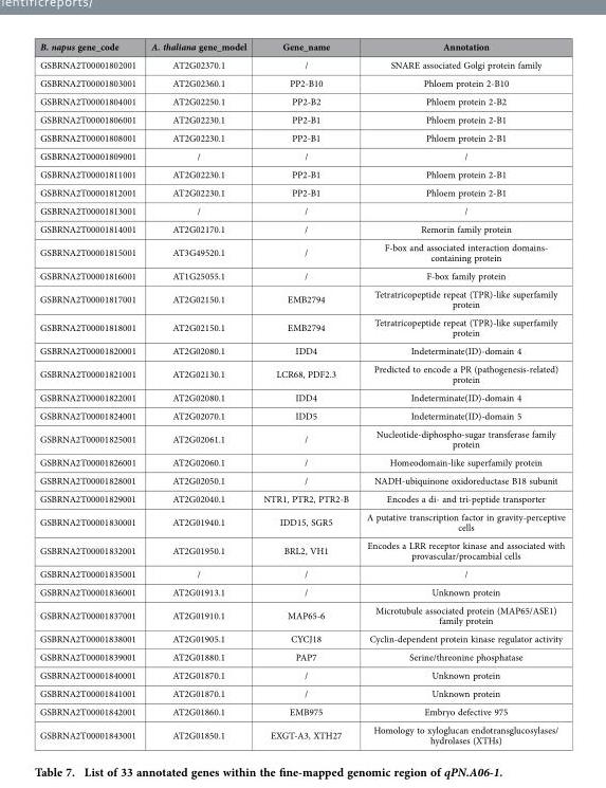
<table><thead><tr><td>B. napus gene_code</td><td>A. thaliana gene_model</td><td>Gene_name</td><td>Annotation</td></tr></thead><tbody><tr><td>GSBRNA2T00001802001</td><td>AT2G02370.1</td><td>/</td><td>SNARE associated Golgi protein family</td></tr><tr><td>GSBRNA2T00001803001</td><td>AT2G02360.1</td><td>PP2-B10</td><td>Phloem protein 2-B10</td></tr><tr><td>GSBRNA2T00001804001</td><td>AT2G02250.1</td><td>PP2-B2</td><td>Phloem protein 2-B2</td></tr><tr><td>GSBRNA2T00001806001</td><td>AT2G02230.1</td><td>PP2-B1</td><td>Phloem protein 2-B1</td></tr><tr><td>GSBRNA2T00001808001</td><td>AT2G02230.1</td><td>PP2-B1</td><td>Phloem protein 2-B1</td></tr><tr><td>GSBRNA2T00001809001</td><td>/</td><td>/</td><td>/</td></tr><tr><td>GSBRNA2T00001811001</td><td>AT2G02230.1</td><td>PP2-B1</td><td>Phloem protein 2-B1</td></tr><tr><td>GSBRNA2T00001812001</td><td>AT2G02230.1</td><td>PP2-B1</td><td>Phloem protein 2-B1</td></tr><tr><td>GSBRNA2T00001813001</td><td>/</td><td>/</td><td>/</td></tr><tr><td>GSBRNA2T00001814001</td><td>AT2G02170.1</td><td>/</td><td>Remorin family protein</td></tr><tr><td>GSBRNA2T00001815001</td><td>AT3G49520.1</td><td>/</td><td>F-box and associated interaction domains- containing protein</td></tr><tr><td>GSBRNA2T00001816001</td><td>AT1G25055.1</td><td>/</td><td>F-box family protein</td></tr><tr><td>GSBRNA2T00001817001</td><td>AT2G02150.1</td><td>EMB2794</td><td>Tetratricopeptide repeat (TPR)-like superfamily protein</td></tr><tr><td>GSBRNA2T00001818001</td><td>AT2G02150.1</td><td>EMB2794</td><td>Tetratricopeptide repeat (TPR)-like superfamily protein</td></tr><tr><td>GSBRNA2T00001820001</td><td>AT2G02080.1</td><td>IDD4</td><td>Indeterminate(ID)-domain 4</td></tr><tr><td>GSBRNA2T00001821001</td><td>AT2G02130.1</td><td>LCR68, PDF2.3</td><td>Predicted to encode a PR (pathogenesis-related) protein</td></tr><tr><td>GSBRNA2T00001822001</td><td>AT2G02080.1</td><td>IDD4</td><td>Indeterminate(ID)-domain 4</td></tr><tr><td>GSBRNA2T00001824001</td><td>AT2G02070.1</td><td>IDD5</td><td>Indeterminate(ID)-domain 5</td></tr><tr><td>GSBRNA2T00001825001</td><td>AT2G02061.1</td><td>/</td><td>Nucleotide-diphospho-sugar transferase family protein</td></tr><tr><td>GSBRNA2T00001826001</td><td>AT2G02060.1</td><td>/</td><td>Homeodomain-like superfamily protein</td></tr><tr><td>GSBRNA2T00001828001</td><td>AT2G02050.1</td><td>/</td><td>NADH-ubiquinone oxidoreductase B18 subunit</td></tr><tr><td>GSBRNA2T00001829001</td><td>AT2G02040.1</td><td>NTR1, PTR2, PTR2-B</td><td>Encodes a di- and tri-peptide transporter</td></tr><tr><td>GSBRNA2T00001830001</td><td>AT2G01940.1</td><td>IDD15, SGR5</td><td>A putative transcription factor in gravity-perceptive cells</td></tr><tr><td>GSBRNA2T00001832001</td><td>AT2G01950.1</td><td>BRL2, VH1</td><td>Encodes a LRR receptor kinase and associated with provascular/procambial cells</td></tr><tr><td>GSBRNA2T00001835001</td><td>/</td><td>/</td><td>/</td></tr><tr><td>GSBRNA2T00001836001</td><td>AT2G01913.1</td><td>/</td><td>Unknown protein</td></tr><tr><td>GSBRNA2T00001837001</td><td>AT2G01910.1</td><td>MAP65-6</td><td>Microtubule associated protein (MAP65/ASE1) family protein</td></tr><tr><td>GSBRNA2T00001838001</td><td>AT2G01905.1</td><td>CYCJ18</td><td>Cyclin-dependent protein kinase regulator activity</td></tr><tr><td>GSBRNA2T00001839001</td><td>AT2G01880.1</td><td>PAP7</td><td>Serine/threonine phosphatase</td></tr><tr><td>GSBRNA2T00001840001</td><td>AT2G01870.1</td><td>/</td><td>Unknown protein</td></tr><tr><td>GSBRNA2T00001841001</td><td>AT2G01870.1</td><td>/</td><td>Unknown protein</td></tr><tr><td>GSBRNA2T00001842001</td><td>AT2G01860.1</td><td>EMB975</td><td>Embryo defective 975</td></tr><tr><td>GSBRNA2T00001843001</td><td>AT2G01850.1</td><td>EXGT-A3, XTH27</td><td>Homology to xyloglucan endotransglucosylases/ hydrolases (XTHs)</td></tr></tbody></table>